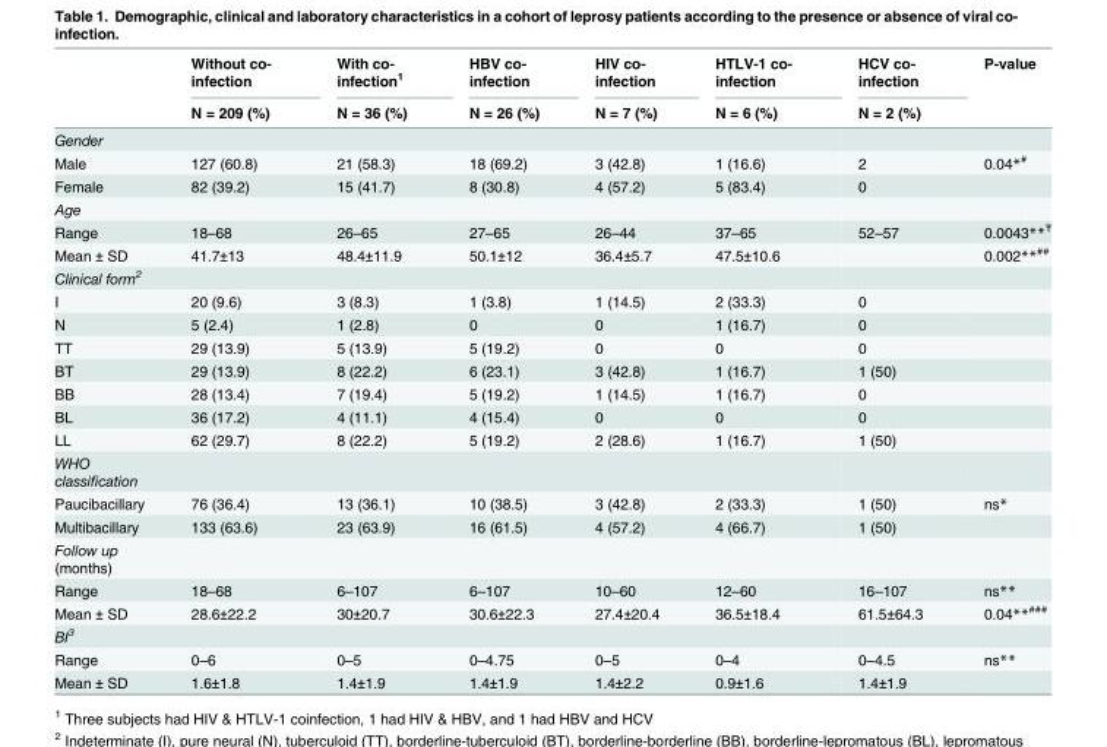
<table><thead><tr><td rowspan="2"></td><td rowspan="2">Without co- infection N = 209 (%)</td><td rowspan="2">With co- infection<sup>1</sup> N = 36 (%)</td><td rowspan="2">HBV co- infection N = 26 (%)</td><td rowspan="2">HIV co- infection N = 7 (%)</td><td rowspan="2">HTLV-1 co- infection N = 6 (%)</td><td rowspan="2">HCV co- infection N = 2 (%)</td><td rowspan="2">P-value</td></tr><tr></tr></thead><tbody><tr><td colspan="8">Gender</td></tr><tr><td>Male</td><td>127 (60.8)</td><td>21 (58.3)</td><td>18 (69.2)</td><td>3 (42.8)</td><td>1 (16.6)</td><td>2</td><td>0.04*<sup>#</sup></td></tr><tr><td>Female</td><td>82 (39.2)</td><td>15 (41.7)</td><td>8 (30.8)</td><td>4 (57.2)</td><td>5 (83.4)</td><td>0</td><td></td></tr><tr><td colspan="8">Age</td></tr><tr><td>Range</td><td>18–68</td><td>26–65</td><td>27–65</td><td>26–44</td><td>37–65</td><td>52–57</td><td>0.0043**<sup>Ŧ</sup></td></tr><tr><td>Mean ± SD</td><td>41.7±13</td><td>48.4±11.9</td><td>50.1±12</td><td>36.4±5.7</td><td>47.5±10.6</td><td></td><td>0.002**<sup>##</sup></td></tr><tr><td colspan="8">Clinical form<sup>2</sup></td></tr><tr><td>I</td><td>20 (9.6)</td><td>3 (8.3)</td><td>1 (3.8)</td><td>1 (14.5)</td><td>2 (33.3)</td><td>0</td><td></td></tr><tr><td>N</td><td>5 (2.4)</td><td>1 (2.8)</td><td>0</td><td>0</td><td>1 (16.7)</td><td>0</td><td></td></tr><tr><td>TT</td><td>29 (13.9)</td><td>5 (13.9)</td><td>5 (19.2)</td><td>0</td><td>0</td><td>0</td><td></td></tr><tr><td>BT</td><td>29 (13.9)</td><td>8 (22.2)</td><td>6 (23.1)</td><td>3 (42.8)</td><td>1 (16.7)</td><td>1 (50)</td><td></td></tr><tr><td>BB</td><td>28 (13.4)</td><td>7 (19.4)</td><td>5 (19.2)</td><td>1 (14.5)</td><td>1 (16.7)</td><td>0</td><td></td></tr><tr><td>BL</td><td>36 (17.2)</td><td>4 (11.1)</td><td>4 (15.4)</td><td>0</td><td>0</td><td>0</td><td></td></tr><tr><td>LL</td><td>62 (29.7)</td><td>8 (22.2)</td><td>5 (19.2)</td><td>2 (28.6)</td><td>1 (16.7)</td><td>1 (50)</td><td></td></tr><tr><td colspan="8">WHO classification</td></tr><tr><td>Paucibacillary</td><td>76 (36.4)</td><td>13 (36.1)</td><td>10 (38.5)</td><td>3 (42.8)</td><td>2 (33.3)</td><td>1 (50)</td><td>ns*</td></tr><tr><td>Multibacillary</td><td>133 (63.6)</td><td>23 (63.9)</td><td>16 (61.5)</td><td>4 (57.2)</td><td>4 (66.7)</td><td>1 (50)</td><td></td></tr><tr><td colspan="8">Follow up (months)</td></tr><tr><td>Range</td><td>18–68</td><td>6–107</td><td>6–107</td><td>10–60</td><td>12–60</td><td>16–107</td><td>ns**</td></tr><tr><td>Mean ± SD</td><td>28.6±22.2</td><td>30±20.7</td><td>30.6±22.3</td><td>27.4±20.4</td><td>36.5±18.4</td><td>61.5±64.3</td><td>0.04**<sup>###</sup></td></tr><tr><td colspan="8">BI<sup>3</sup></td></tr><tr><td>Range</td><td>0–6</td><td>0–5</td><td>0–4.75</td><td>0–5</td><td>0–4</td><td>0–4.5</td><td>ns**</td></tr><tr><td>Mean ± SD</td><td>1.6±1.8</td><td>1.4±1.9</td><td>1.4±1.9</td><td>1.4±2.2</td><td>0.9±1.6</td><td>1.4±1.9</td><td></td></tr></tbody></table>